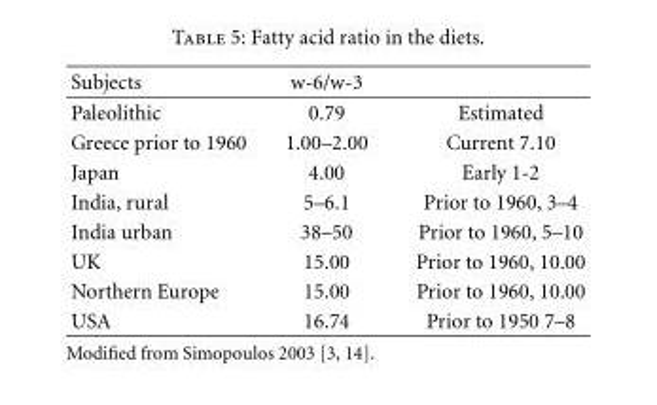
<table><thead><tr><td>Subjects</td><td>w-6/w-3</td><td></td></tr></thead><tbody><tr><td>Paleolithic</td><td>0.79</td><td>Estimated</td></tr><tr><td>Greece prior to 1960</td><td>1.00–2.00</td><td>Current 7.10</td></tr><tr><td>Japan</td><td>4.00</td><td>Early 1-2</td></tr><tr><td>India, rural</td><td>5–6.1</td><td>Prior to 1960, 3–4</td></tr><tr><td>India urban</td><td>38–50</td><td>Prior to 1960, 5–10</td></tr><tr><td>UK</td><td>15.00</td><td>Prior to 1960, 10.00</td></tr><tr><td>Northern Europe</td><td>15.00</td><td>Prior to 1960, 10.00</td></tr><tr><td>USA</td><td>16.74</td><td>Prior to 1950 7–8</td></tr></tbody></table>